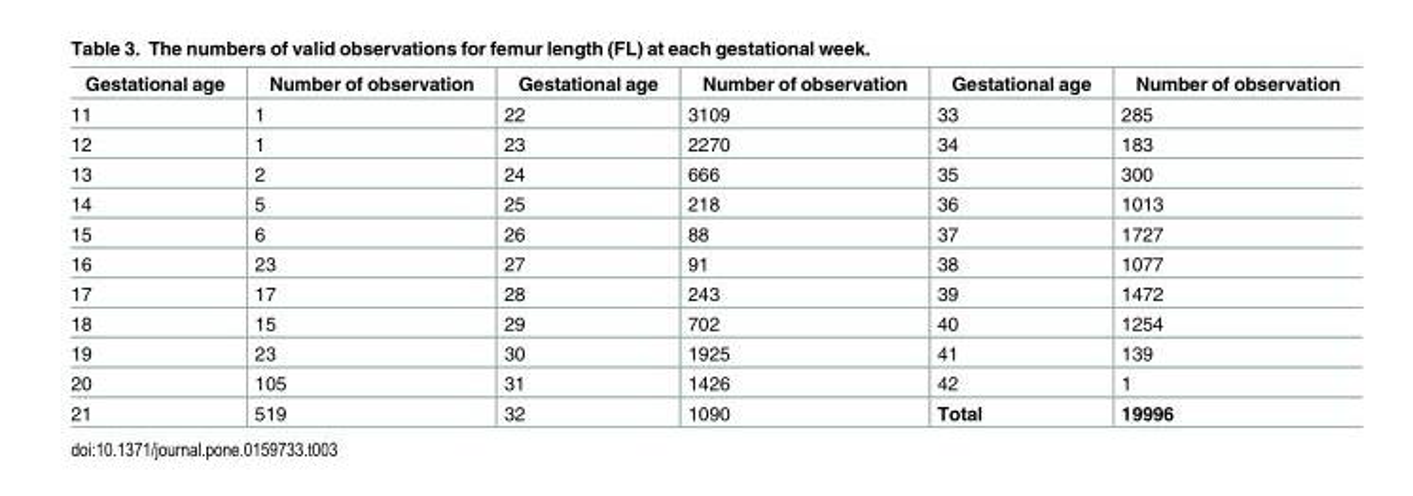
<table><thead><tr><td>Gestational age</td><td>Number of observation</td><td>Gestational age</td><td>Number of observation</td><td>Gestational age</td><td>Number of observation</td></tr></thead><tbody><tr><td>11</td><td>1</td><td>22</td><td>3109</td><td>33</td><td>285</td></tr><tr><td>12</td><td>1</td><td>23</td><td>2270</td><td>34</td><td>183</td></tr><tr><td>13</td><td>2</td><td>24</td><td>666</td><td>35</td><td>300</td></tr><tr><td>14</td><td>5</td><td>25</td><td>218</td><td>36</td><td>1013</td></tr><tr><td>15</td><td>6</td><td>26</td><td>88</td><td>37</td><td>1727</td></tr><tr><td>16</td><td>23</td><td>27</td><td>91</td><td>38</td><td>1077</td></tr><tr><td>17</td><td>17</td><td>28</td><td>243</td><td>39</td><td>1472</td></tr><tr><td>18</td><td>15</td><td>29</td><td>702</td><td>40</td><td>1254</td></tr><tr><td>19</td><td>23</td><td>30</td><td>1925</td><td>41</td><td>139</td></tr><tr><td>20</td><td>105</td><td>31</td><td>1426</td><td>42</td><td>1</td></tr><tr><td>21</td><td>519</td><td>32</td><td>1090</td><td>Total</td><td>19996</td></tr></tbody></table>